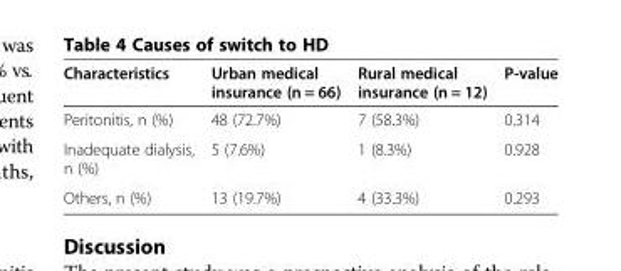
<table><thead><tr><td>Characteristics</td><td>Urban medical insurance (n = 66)</td><td>Rural medical insurance (n = 12)</td><td>P-value</td></tr></thead><tbody><tr><td>Peritonitis, n (%)</td><td>48 (72.7%)</td><td>7 (58.3%)</td><td>0.314</td></tr><tr><td>Inadequate dialysis, n (%)</td><td>5 (7.6%)</td><td>1 (8.3%)</td><td>0.928</td></tr><tr><td>Others, n (%)</td><td>13 (19.7%)</td><td>4 (33.3%)</td><td>0.293</td></tr></tbody></table>